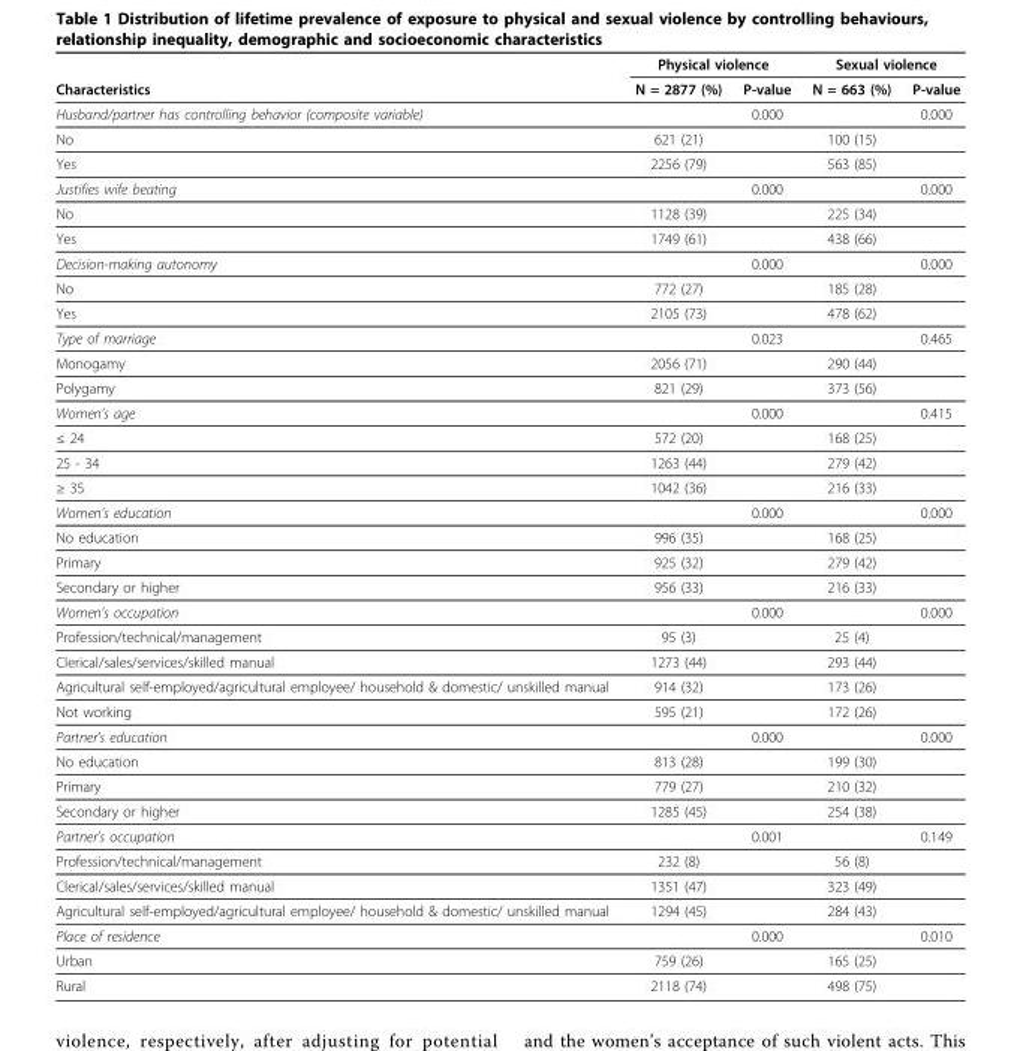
<table><thead><tr><td rowspan="2">Characteristics</td><td colspan="2">Physical violence</td><td colspan="2">Sexual violence</td></tr><tr><td>N = 2877 (%)</td><td>P-value</td><td>N = 663 (%)</td><td>P-value</td></tr></thead><tbody><tr><td>Husband/partner has controlling behavior (composite variable)</td><td></td><td>0.000</td><td></td><td>0.000</td></tr><tr><td>No</td><td>621 (21)</td><td></td><td>100 (15)</td><td></td></tr><tr><td>Yes</td><td>2256 (79)</td><td></td><td>563 (85)</td><td></td></tr><tr><td>Justifies wife beating</td><td></td><td>0.000</td><td></td><td>0.000</td></tr><tr><td>No</td><td>1128 (39)</td><td></td><td>225 (34)</td><td></td></tr><tr><td>Yes</td><td>1749 (61)</td><td></td><td>438 (66)</td><td></td></tr><tr><td>Decision-making autonomy</td><td></td><td>0.000</td><td></td><td>0.000</td></tr><tr><td>No</td><td>772 (27)</td><td></td><td>185 (28)</td><td></td></tr><tr><td>Yes</td><td>2105 (73)</td><td></td><td>478 (62)</td><td></td></tr><tr><td>Type of marriage</td><td></td><td>0.023</td><td></td><td>0.465</td></tr><tr><td>Monogamy</td><td>2056 (71)</td><td></td><td>290 (44)</td><td></td></tr><tr><td>Polygamy</td><td>821 (29)</td><td></td><td>373 (56)</td><td></td></tr><tr><td>Women’s age</td><td></td><td>0.000</td><td></td><td>0.415</td></tr><tr><td>≤ 24</td><td>572 (20)</td><td></td><td>168 (25)</td><td></td></tr><tr><td>25 - 34</td><td>1263 (44)</td><td></td><td>279 (42)</td><td></td></tr><tr><td>≥ 35</td><td>1042 (36)</td><td></td><td>216 (33)</td><td></td></tr><tr><td>Women’s education</td><td></td><td>0.000</td><td></td><td>0.000</td></tr><tr><td>No education</td><td>996 (35)</td><td></td><td>168 (25)</td><td></td></tr><tr><td>Primary</td><td>925 (32)</td><td></td><td>279 (42)</td><td></td></tr><tr><td>Secondary or higher</td><td>956 (33)</td><td></td><td>216 (33)</td><td></td></tr><tr><td>Women’s occupation</td><td></td><td>0.000</td><td></td><td>0.000</td></tr><tr><td>Profession/technical/management</td><td>95 (3)</td><td></td><td>25 (4)</td><td></td></tr><tr><td>Clerical/sales/services/skilled manual</td><td>1273 (44)</td><td></td><td>293 (44)</td><td></td></tr><tr><td>Agricultural self-employed/agricultural employee/ household &amp; domestic/ unskilled manual</td><td>914 (32)</td><td></td><td>173 (26)</td><td></td></tr><tr><td>Not working</td><td>595 (21)</td><td></td><td>172 (26)</td><td></td></tr><tr><td>Partner’s education</td><td></td><td>0.000</td><td></td><td>0.000</td></tr><tr><td>No education</td><td>813 (28)</td><td></td><td>199 (30)</td><td></td></tr><tr><td>Primary</td><td>779 (27)</td><td></td><td>210 (32)</td><td></td></tr><tr><td>Secondary or higher</td><td>1285 (45)</td><td></td><td>254 (38)</td><td></td></tr><tr><td>Partner’s occupation</td><td></td><td>0.001</td><td></td><td>0.149</td></tr><tr><td>Profession/technical/management</td><td>232 (8)</td><td></td><td>56 (8)</td><td></td></tr><tr><td>Clerical/sales/services/skilled manual</td><td>1351 (47)</td><td></td><td>323 (49)</td><td></td></tr><tr><td>Agricultural self-employed/agricultural employee/ household &amp; domestic/ unskilled manual</td><td>1294 (45)</td><td></td><td>284 (43)</td><td></td></tr><tr><td>Place of residence</td><td></td><td>0.000</td><td></td><td>0.010</td></tr><tr><td>Urban</td><td>759 (26)</td><td></td><td>165 (25)</td><td></td></tr><tr><td>Rural</td><td>2118 (74)</td><td></td><td>498 (75)</td><td></td></tr></tbody></table>